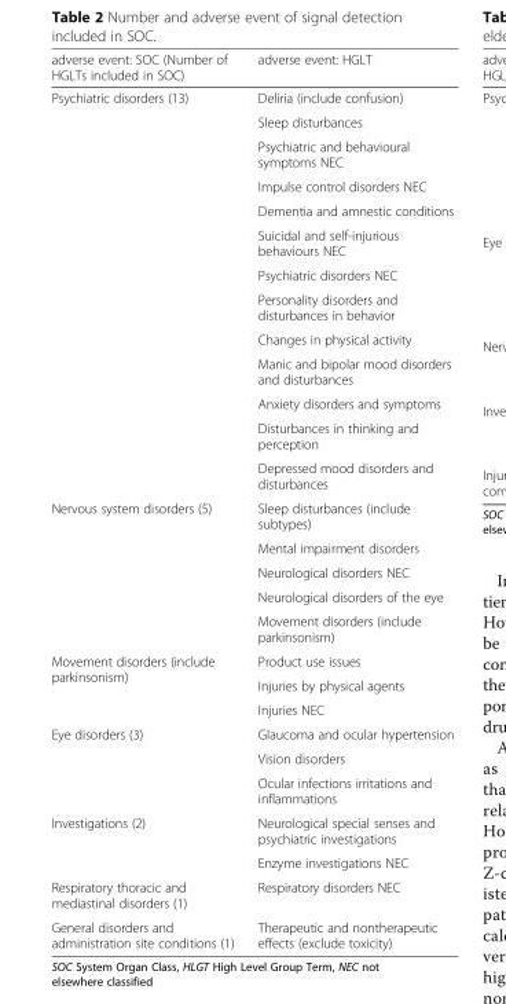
<table><thead><tr><td>adverse event: SOC (Number of HGLTs included in SOC)</td><td>adverse event: HGLT</td></tr></thead><tbody><tr><td rowspan="13">Psychiatric disorders (13)</td><td>Deliria (include confusion)</td></tr><tr><td>Sleep disturbances</td></tr><tr><td>Psychiatric and behavioural symptoms NEC</td></tr><tr><td>Impulse control disorders NEC</td></tr><tr><td>Dementia and amnestic conditions</td></tr><tr><td>Suicidal and self-injurious behaviours NEC</td></tr><tr><td>Psychiatric disorders NEC</td></tr><tr><td>Personality disorders and disturbances in behavior</td></tr><tr><td>Changes in physical activity</td></tr><tr><td>Manic and bipolar mood disorders and disturbances</td></tr><tr><td>Anxiety disorders and symptoms</td></tr><tr><td>Disturbances in thinking and perception</td></tr><tr><td>Depressed mood disorders and disturbances</td></tr><tr><td rowspan="5">Nervous system disorders (5)</td><td>Sleep disturbances (include subtypes)</td></tr><tr><td>Mental impairment disorders</td></tr><tr><td>Neurological disorders NEC</td></tr><tr><td>Neurological disorders of the eye</td></tr><tr><td>Movement disorders (include parkinsonism)</td></tr><tr><td rowspan="3">Movement disorders (include parkinsonism)</td><td>Product use issues</td></tr><tr><td>Injuries by physical agents</td></tr><tr><td>Injuries NEC</td></tr><tr><td rowspan="3">Eye disorders (3)</td><td>Glaucoma and ocular hypertension</td></tr><tr><td>Vision disorders</td></tr><tr><td>Ocular infections irritations and inflammations</td></tr><tr><td rowspan="2">Investigations (2)</td><td>Neurological special senses and psychiatric investigations</td></tr><tr><td>Enzyme investigations NEC</td></tr><tr><td>Respiratory thoracic and mediastinal disorders (1)</td><td>Respiratory disorders NEC</td></tr><tr><td>General disorders and administration site conditions (1)</td><td>Therapeutic and nontherapeutic effects (exclude toxicity)</td></tr></tbody></table>